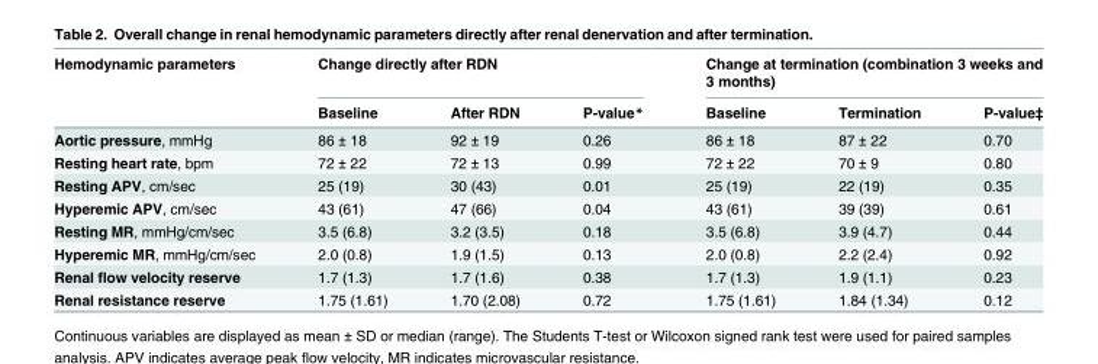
<table><thead><tr><td rowspan="2">Hemodynamic parameters</td><td colspan="3">Change directly after RDN</td><td colspan="3">Change at termination (combination 3 weeks and 3 months)</td></tr><tr><td>Baseline</td><td>After RDN</td><td>P-value*</td><td>Baseline</td><td>Termination</td><td>P-value‡</td></tr></thead><tbody><tr><td>Aortic pressure, mmHg</td><td>86 ± 18</td><td>92 ± 19</td><td>0.26</td><td>86 ± 18</td><td>87 ± 22</td><td>0.70</td></tr><tr><td>Resting heart rate, bpm</td><td>72 ± 22</td><td>72 ± 13</td><td>0.99</td><td>72 ± 22</td><td>70 ± 9</td><td>0.80</td></tr><tr><td>Resting APV, cm/sec</td><td>25 (19)</td><td>30 (43)</td><td>0.01</td><td>25 (19)</td><td>22 (19)</td><td>0.35</td></tr><tr><td>Hyperemic APV, cm/sec</td><td>43 (61)</td><td>47 (66)</td><td>0.04</td><td>43 (61)</td><td>39 (39)</td><td>0.61</td></tr><tr><td>Resting MR, mmHg/cm/sec</td><td>3.5 (6.8)</td><td>3.2 (3.5)</td><td>0.18</td><td>3.5 (6.8)</td><td>3.9 (4.7)</td><td>0.44</td></tr><tr><td>Hyperemic MR, mmHg/cm/sec</td><td>2.0 (0.8)</td><td>1.9 (1.5)</td><td>0.13</td><td>2.0 (0.8)</td><td>2.2 (2.4)</td><td>0.92</td></tr><tr><td>Renal flow velocity reserve</td><td>1.7 (1.3)</td><td>1.7 (1.6)</td><td>0.38</td><td>1.7 (1.3)</td><td>1.9 (1.1)</td><td>0.23</td></tr><tr><td>Renal resistance reserve</td><td>1.75 (1.61)</td><td>1.70 (2.08)</td><td>0.72</td><td>1.75 (1.61)</td><td>1.84 (1.34)</td><td>0.12</td></tr></tbody></table>